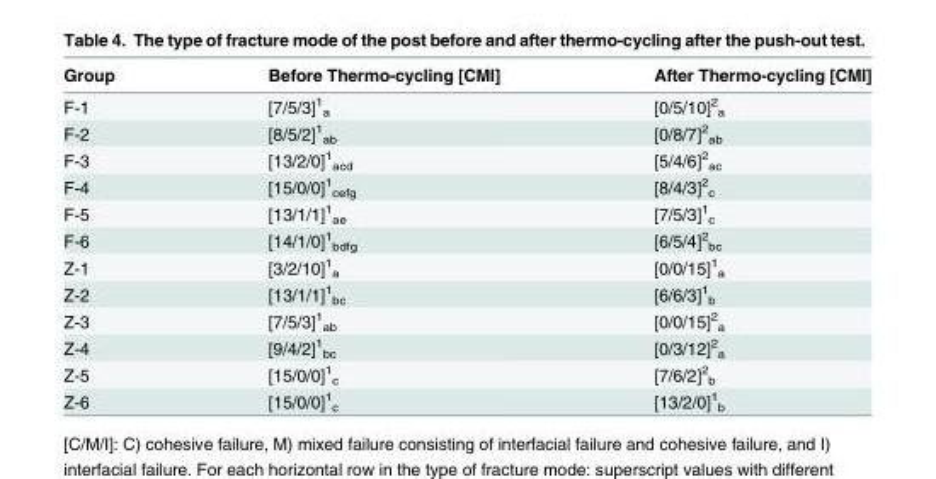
<table><thead><tr><td>Group</td><td>Before Thermo-cycling [CMI]</td><td>After Thermo-cycling [CMI]</td></tr></thead><tbody><tr><td>F-1</td><td>[7/5/3]<sup>1</sup> <sub>a</sub></td><td>[0/5/10]<sup>2</sup> <sub>a</sub></td></tr><tr><td>F-2</td><td>[8/5/2]<sup>1</sup> <sub>ab</sub></td><td>[0/8/7]<sup>2</sup> <sub>ab</sub></td></tr><tr><td>F-3</td><td>[13/2/0]<sup>1</sup> <sub>acd</sub></td><td>[5/4/6]<sup>2</sup> <sub>ac</sub></td></tr><tr><td>F-4</td><td>[15/0/0]<sup>1</sup> <sub>cefg</sub></td><td>[8/4/3]<sup>2</sup> <sub>c</sub></td></tr><tr><td>F-5</td><td>[13/1/1]<sup>1</sup> <sub>ae</sub></td><td>[7/5/3]<sup>1</sup> <sub>c</sub></td></tr><tr><td>F-6</td><td>[14/1/0]<sup>1</sup> <sub>bdfg</sub></td><td>[6/5/4]<sup>2</sup> <sub>bc</sub></td></tr><tr><td>Z-1</td><td>[3/2/10]<sup>1</sup> <sub>a</sub></td><td>[0/0/15]<sup>1</sup> <sub>a</sub></td></tr><tr><td>Z-2</td><td>[13/1/1]<sup>1</sup> <sub>bc</sub></td><td>[6/6/3]<sup>1</sup> <sub>b</sub></td></tr><tr><td>Z-3</td><td>[7/5/3]<sup>1</sup> <sub>ab</sub></td><td>[0/0/15]<sup>2</sup> <sub>a</sub></td></tr><tr><td>Z-4</td><td>[9/4/2]<sup>1</sup> <sub>bc</sub></td><td>[0/3/12]<sup>2</sup> <sub>a</sub></td></tr><tr><td>Z-5</td><td>[15/0/0]<sup>1</sup> <sub>c</sub></td><td>[7/6/2]<sup>2</sup> <sub>b</sub></td></tr><tr><td>Z-6</td><td>[15/0/0]<sup>1</sup> <sub>c</sub></td><td>[13/2/0]<sup>1</sup> <sub>b</sub></td></tr></tbody></table>